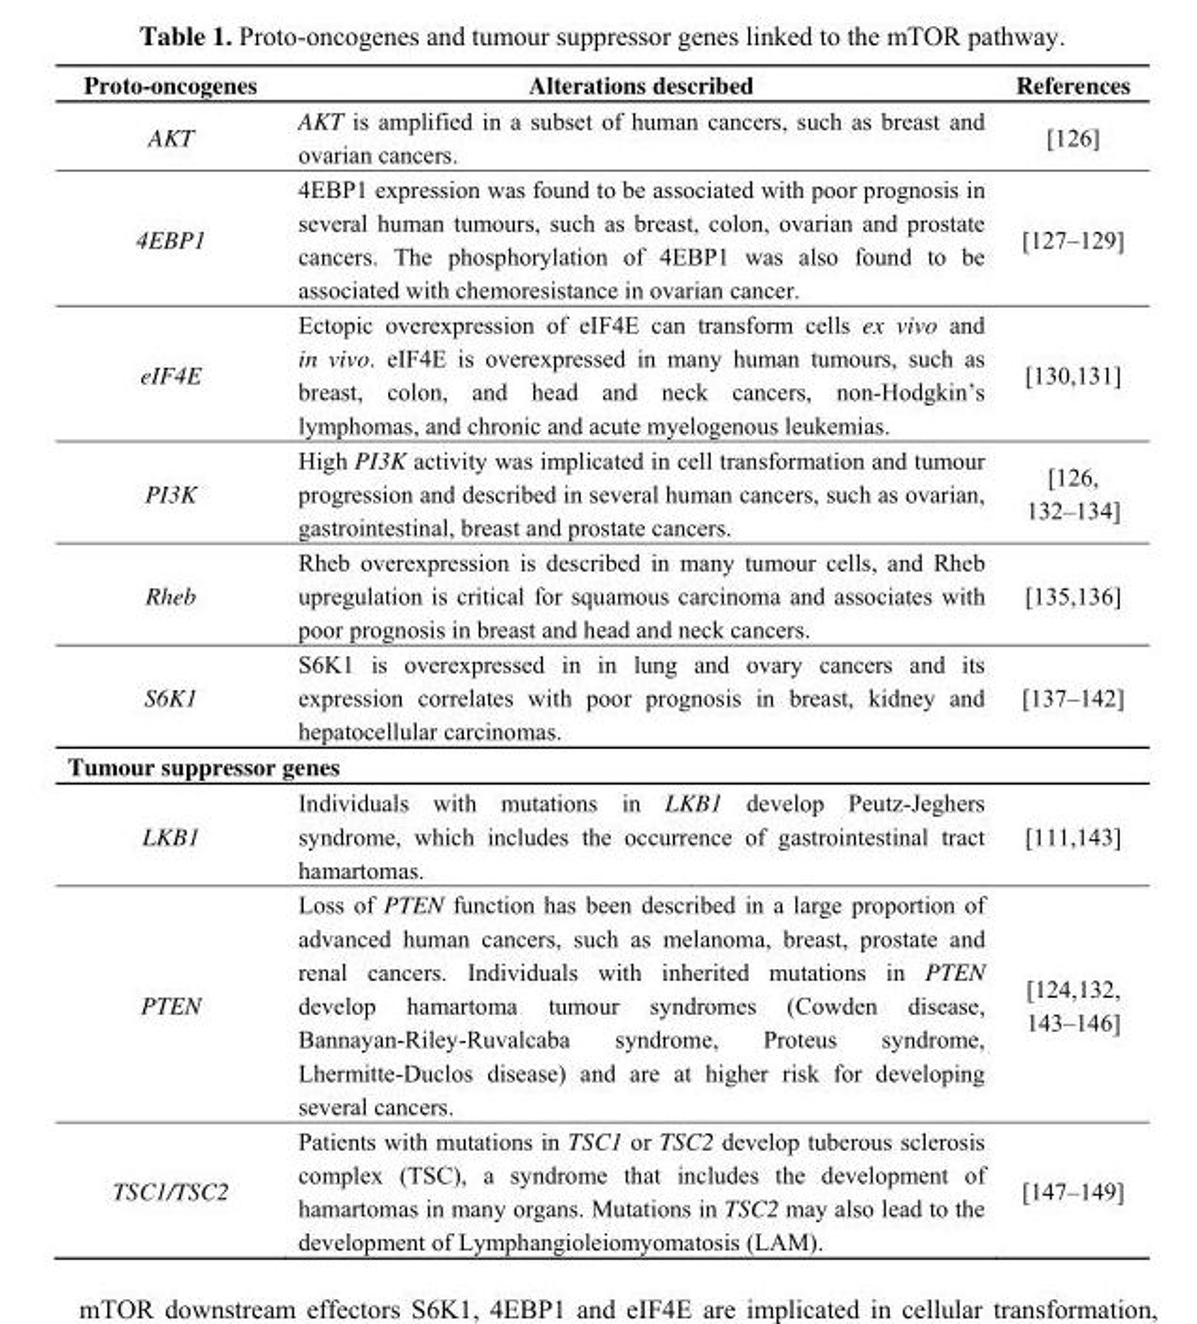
<table><thead><tr><td>Proto-oncogenes</td><td>Alterations described</td><td>References</td></tr></thead><tbody><tr><td>AKT</td><td>AKT is amplified in a subset of human cancers, such as breast and ovarian cancers.</td><td>[126]</td></tr><tr><td>4EBP1</td><td>4EBP1 expression was found to be associated with poor prognosis in several human tumours, such as breast, colon, ovarian and prostate cancers. The phosphorylation of 4EBP1 was also found to be associated with chemoresistance in ovarian cancer.</td><td>[127–129]</td></tr><tr><td>eIF4E</td><td>Ectopic overexpression of eIF4E can transform cells ex vivo and in vivo. eIF4E is overexpressed in many human tumours, such as breast, colon, and head and neck cancers, non-Hodgkin’s lymphomas, and chronic and acute myelogenous leukemias.</td><td>[130,131]</td></tr><tr><td>PI3K</td><td>High PI3K activity was implicated in cell transformation and tumour progression and described in several human cancers, such as ovarian, gastrointestinal, breast and prostate cancers.</td><td>[126, 132–134]</td></tr><tr><td>Rheb</td><td>Rheb overexpression is described in many tumour cells, and Rheb upregulation is critical for squamous carcinoma and associates with poor prognosis in breast and head and neck cancers.</td><td>[135,136]</td></tr><tr><td>S6K1</td><td>S6K1 is overexpressed in in lung and ovary cancers and its expression correlates with poor prognosis in breast, kidney and hepatocellular carcinomas.</td><td>[137–142]</td></tr><tr><td colspan="3">Tumour suppressor genes</td></tr><tr><td>LKB1</td><td>Individuals with mutations in LKB1 develop Peutz-Jeghers syndrome, which includes the occurrence of gastrointestinal tract hamartomas.</td><td>[111,143]</td></tr><tr><td>PTEN</td><td>Loss of PTEN function has been described in a large proportion of advanced human cancers, such as melanoma, breast, prostate and renal cancers. Individuals with inherited mutations in PTEN develop hamartoma tumour syndromes (Cowden disease, Bannayan-Riley-Ruvalcaba syndrome, Proteus syndrome, Lhermitte-Duclos disease) and are at higher risk for developing several cancers.</td><td>[124,132, 143–146]</td></tr><tr><td>TSC1/TSC2</td><td>Patients with mutations in TSC1 or TSC2 develop tuberous sclerosis complex (TSC), a syndrome that includes the development of hamartomas in many organs. Mutations in TSC2 may also lead to the development of Lymphangioleiomyomatosis (LAM).</td><td>[147–149]</td></tr></tbody></table>